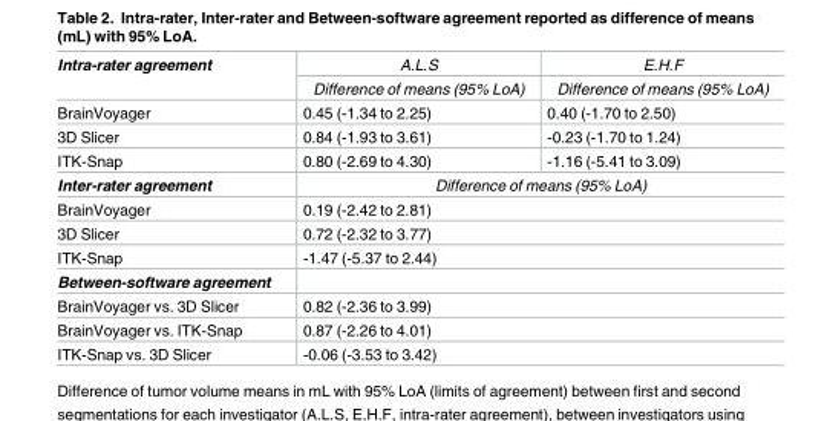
<table><tbody><tr><td rowspan="2">Intra-rater agreement</td><td>A.L.S</td><td>E.H.F</td></tr><tr><td>Difference of means (95% LoA)</td><td>Difference of means (95% LoA)</td></tr><tr><td>BrainVoyager</td><td>0.45 (-1.34 to 2.25)</td><td>0.40 (-1.70 to 2.50)</td></tr><tr><td>3D Slicer</td><td>0.84 (-1.93 to 3.61)</td><td>-0.23 (-1.70 to 1.24)</td></tr><tr><td>ITK-Snap</td><td>0.80 (-2.69 to 4.30)</td><td>-1.16 (-5.41 to 3.09)</td></tr><tr><td>Inter-rater agreement</td><td colspan="2">Difference of means (95% LoA)</td></tr><tr><td>BrainVoyager</td><td colspan="2">0.19 (-2.42 to 2.81)</td></tr><tr><td>3D Slicer</td><td colspan="2">0.72 (-2.32 to 3.77)</td></tr><tr><td>ITK-Snap</td><td colspan="2">-1.47 (-5.37 to 2.44)</td></tr><tr><td colspan="3">Between-software agreement</td></tr><tr><td>BrainVoyager vs. 3D Slicer</td><td colspan="2">0.82 (-2.36 to 3.99)</td></tr><tr><td>BrainVoyager vs. ITK-Snap</td><td colspan="2">0.87 (-2.26 to 4.01)</td></tr><tr><td>ITK-Snap vs. 3D Slicer</td><td colspan="2">-0.06 (-3.53 to 3.42)</td></tr></tbody></table>